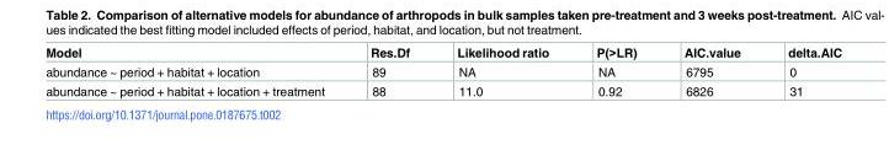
<table><thead><tr><td>Model</td><td>Res.Df</td><td>Likelihood ratio</td><td>P(&gt;LR)</td><td>AIC.value</td><td>delta.AIC</td></tr></thead><tbody><tr><td>abundance ~ period + habitat + location</td><td>89</td><td>NA</td><td>NA</td><td>6795</td><td>0</td></tr><tr><td>abundance ~ period + habitat + location + treatment</td><td>88</td><td>11.0</td><td>0.92</td><td>6826</td><td>31</td></tr></tbody></table>